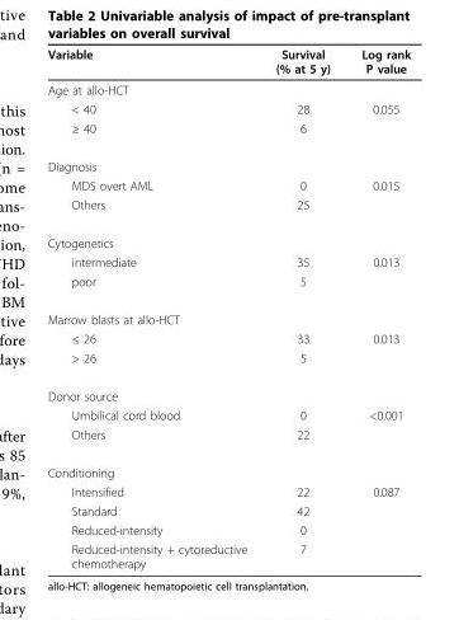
<table><thead><tr><td>Variable</td><td>Survival (% at 5 y)</td><td>Log rank P value</td></tr></thead><tbody><tr><td colspan="3">Age at allo-HCT</td></tr><tr><td>&lt; 40</td><td>28</td><td>0.055</td></tr><tr><td>≥ 40</td><td>6</td><td></td></tr><tr><td colspan="3">Diagnosis</td></tr><tr><td>MDS overt AML</td><td>0</td><td>0.015</td></tr><tr><td>Others</td><td>25</td><td></td></tr><tr><td colspan="3">Cytogenetics</td></tr><tr><td>intermediate</td><td>35</td><td>0.013</td></tr><tr><td>poor</td><td>5</td><td></td></tr><tr><td colspan="3">Marrow blasts at allo-HCT</td></tr><tr><td>≤ 26</td><td>33</td><td>0.013</td></tr><tr><td>&gt; 26</td><td>5</td><td></td></tr><tr><td colspan="3">Donor source</td></tr><tr><td>Umbilical cord blood</td><td>0</td><td>&lt;0.001</td></tr><tr><td>Others</td><td>22</td><td></td></tr><tr><td colspan="3">Conditioning</td></tr><tr><td>Intensified</td><td>22</td><td>0.087</td></tr><tr><td>Standard</td><td>42</td><td></td></tr><tr><td>Reduced-intensity</td><td>0</td><td></td></tr><tr><td>Reduced-intensity + cytoreductive chemotherapy</td><td>7</td><td></td></tr></tbody></table>